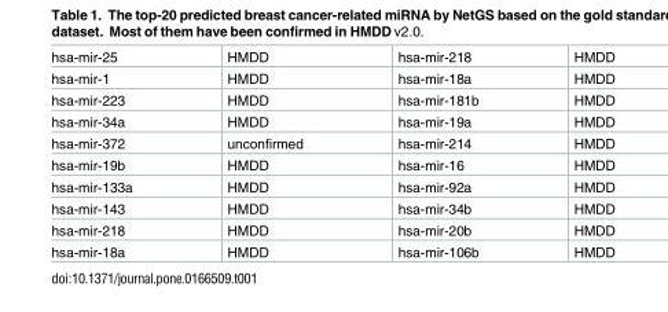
<table><tbody><tr><td>hsa-mir-25</td><td>HMDD</td><td>hsa-mir-218</td><td>HMDD</td></tr><tr><td>hsa-mir-1</td><td>HMDD</td><td>hsa-mir-18a</td><td>HMDD</td></tr><tr><td>hsa-mir-223</td><td>HMDD</td><td>hsa-mir-181b</td><td>HMDD</td></tr><tr><td>hsa-mir-34a</td><td>HMDD</td><td>hsa-mir-19a</td><td>HMDD</td></tr><tr><td>hsa-mir-372</td><td>unconfirmed</td><td>hsa-mir-214</td><td>HMDD</td></tr><tr><td>hsa-mir-19b</td><td>HMDD</td><td>hsa-mir-16</td><td>HMDD</td></tr><tr><td>hsa-mir-133a</td><td>HMDD</td><td>hsa-mir-92a</td><td>HMDD</td></tr><tr><td>hsa-mir-143</td><td>HMDD</td><td>hsa-mir-34b</td><td>HMDD</td></tr><tr><td>hsa-mir-218</td><td>HMDD</td><td>hsa-mir-20b</td><td>HMDD</td></tr><tr><td>hsa-mir-18a</td><td>HMDD</td><td>hsa-mir-106b</td><td>HMDD</td></tr></tbody></table>